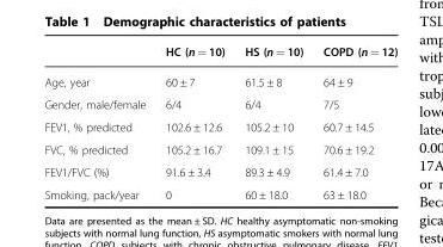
<table><thead><tr><td></td><td>HC (n = 10)</td><td>HS (n = 10)</td><td>COPD (n = 12)</td></tr></thead><tbody><tr><td>Age, year</td><td>60 ± 7</td><td>61.5 ± 8</td><td>64 ± 9</td></tr><tr><td>Gender, male/female</td><td>6/4</td><td>6/4</td><td>7/5</td></tr><tr><td>FEV1, % predicted</td><td>102.6 ± 12.6</td><td>105.2 ± 10</td><td>60.7 ± 14.5</td></tr><tr><td>FVC, % predicted</td><td>105.2 ± 16.7</td><td>109.1 ± 15</td><td>70.6 ± 19.2</td></tr><tr><td>FEV1/FVC (%)</td><td>91.6 ± 3.4</td><td>89.3 ± 4.9</td><td>61.4 ± 7.0</td></tr><tr><td>Smoking, pack/year</td><td>0</td><td>60 ± 18.0</td><td>63 ± 18.0</td></tr></tbody></table>